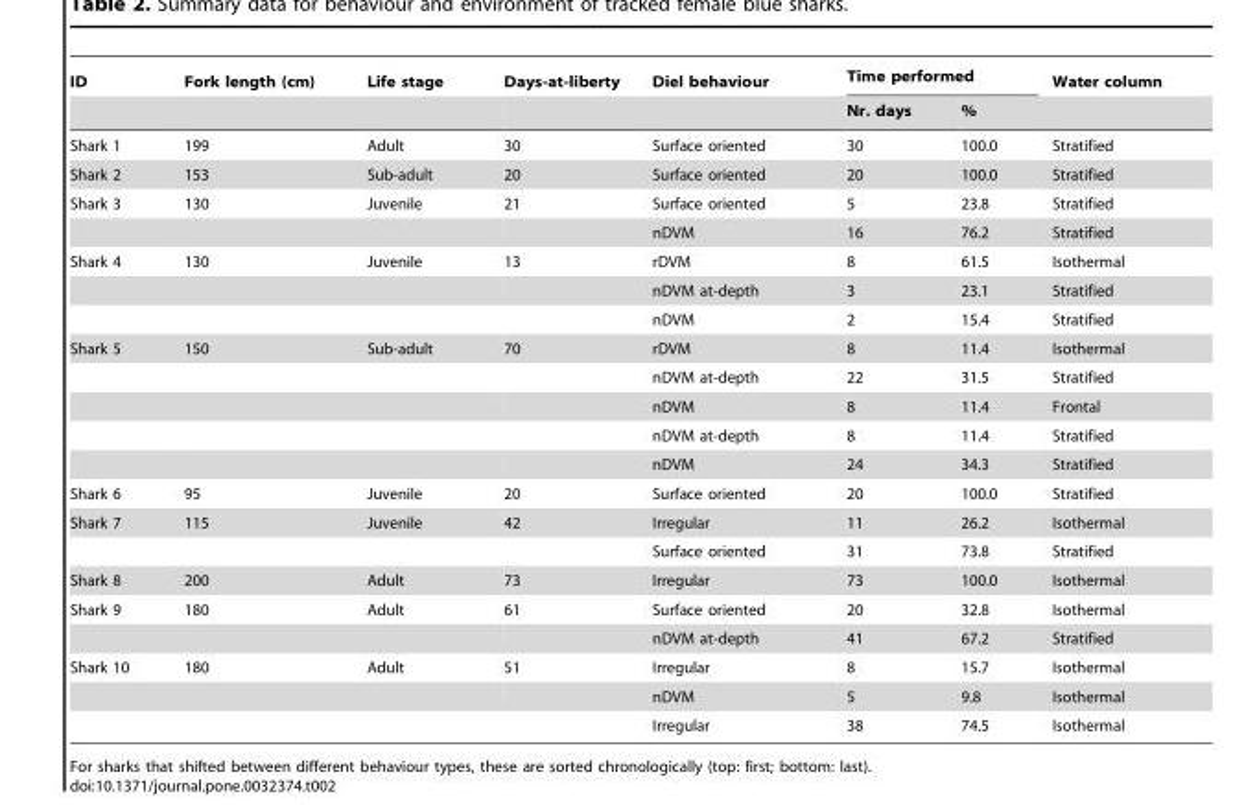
<table><thead><tr><td rowspan="2">ID</td><td rowspan="2">Fork length (cm)</td><td rowspan="2">Life stage</td><td rowspan="2">Days-at-liberty</td><td rowspan="2">Diel behaviour</td><td colspan="2">Time performed</td><td rowspan="2">Water column</td></tr><tr><td>Nr. days</td><td>%</td></tr></thead><tbody><tr><td>Shark 1</td><td>199</td><td>Adult</td><td>30</td><td>Surface oriented</td><td>30</td><td>100.0</td><td>Stratified</td></tr><tr><td>Shark 2</td><td>153</td><td>Sub-adult</td><td>20</td><td>Surface oriented</td><td>20</td><td>100.0</td><td>Stratified</td></tr><tr><td rowspan="2">Shark 3</td><td>130</td><td>Juvenile</td><td>21</td><td>Surface oriented</td><td>5</td><td>23.8</td><td>Stratified</td></tr><tr><td></td><td></td><td></td><td>nDVM</td><td>16</td><td>76.2</td><td>Stratified</td></tr><tr><td rowspan="3">Shark 4</td><td>130</td><td>Juvenile</td><td>13</td><td>rDVM</td><td>8</td><td>61.5</td><td>Isothermal</td></tr><tr><td></td><td></td><td></td><td>nDVM at-depth</td><td>3</td><td>23.1</td><td>Stratified</td></tr><tr><td></td><td></td><td></td><td>nDVM</td><td>2</td><td>15.4</td><td>Stratified</td></tr><tr><td rowspan="5">Shark 5</td><td>150</td><td>Sub-adult</td><td>70</td><td>rDVM</td><td>8</td><td>11.4</td><td>Isothermal</td></tr><tr><td></td><td></td><td></td><td>nDVM at-depth</td><td>22</td><td>31.5</td><td>Stratified</td></tr><tr><td></td><td></td><td></td><td>nDVM</td><td>8</td><td>11.4</td><td>Frontal</td></tr><tr><td></td><td></td><td></td><td>nDVM at-depth</td><td>8</td><td>11.4</td><td>Stratified</td></tr><tr><td></td><td></td><td></td><td>nDVM</td><td>24</td><td>34.3</td><td>Stratified</td></tr><tr><td>Shark 6</td><td>95</td><td>Juvenile</td><td>20</td><td>Surface oriented</td><td>20</td><td>100.0</td><td>Stratified</td></tr><tr><td rowspan="2">Shark 7</td><td>115</td><td>Juvenile</td><td>42</td><td>Irregular</td><td>11</td><td>26.2</td><td>Isothermal</td></tr><tr><td></td><td></td><td></td><td>Surface oriented</td><td>31</td><td>73.8</td><td>Stratified</td></tr><tr><td>Shark 8</td><td>200</td><td>Adult</td><td>73</td><td>Irregular</td><td>73</td><td>100.0</td><td>Isothermal</td></tr><tr><td rowspan="2">Shark 9</td><td>180</td><td>Adult</td><td>61</td><td>Surface oriented</td><td>20</td><td>32.8</td><td>Isothermal</td></tr><tr><td></td><td></td><td></td><td>nDVM at-depth</td><td>41</td><td>67.2</td><td>Stratified</td></tr><tr><td rowspan="3">Shark 10</td><td>180</td><td>Adult</td><td>51</td><td>Irregular</td><td>8</td><td>15.7</td><td>Isothermal</td></tr><tr><td></td><td></td><td></td><td>nDVM</td><td>5</td><td>9.8</td><td>Isothermal</td></tr><tr><td></td><td></td><td></td><td>Irregular</td><td>38</td><td>74.5</td><td>Isothermal</td></tr></tbody></table>